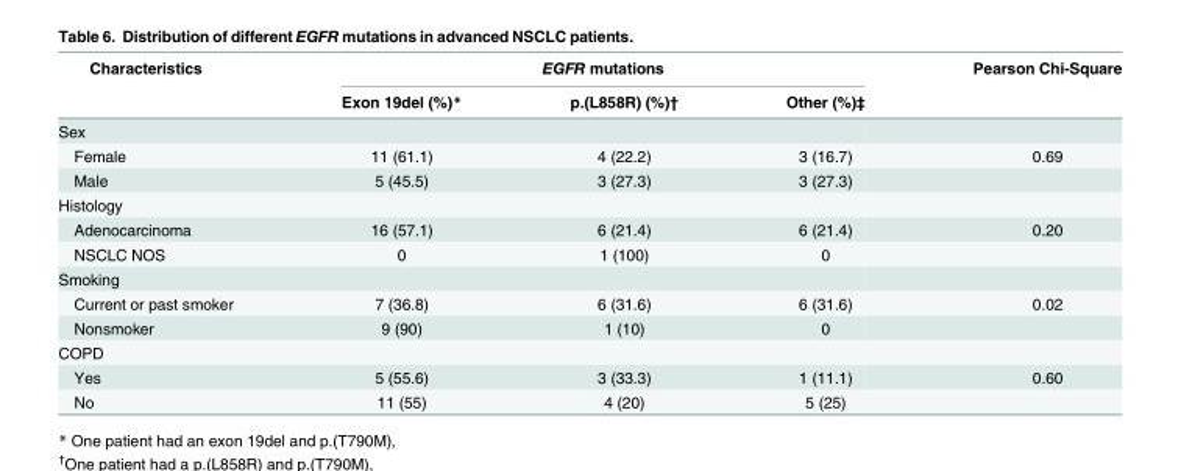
<table><thead><tr><td rowspan="2">Characteristics</td><td colspan="3">EGFR mutations</td><td rowspan="2">Pearson Chi-Square</td></tr><tr><td>Exon 19del (%)*</td><td>p.(L858R) (%)†</td><td>Other (%)‡</td></tr></thead><tbody><tr><td colspan="5">Sex</td></tr><tr><td>Female</td><td>11 (61.1)</td><td>4 (22.2)</td><td>3 (16.7)</td><td>0.69</td></tr><tr><td>Male</td><td>5 (45.5)</td><td>3 (27.3)</td><td>3 (27.3)</td><td></td></tr><tr><td colspan="5">Histology</td></tr><tr><td>Adenocarcinoma</td><td>16 (57.1)</td><td>6 (21.4)</td><td>6 (21.4)</td><td>0.20</td></tr><tr><td>NSCLC NOS</td><td>0</td><td>1 (100)</td><td>0</td><td></td></tr><tr><td colspan="5">Smoking</td></tr><tr><td>Current or past smoker</td><td>7 (36.8)</td><td>6 (31.6)</td><td>6 (31.6)</td><td>0.02</td></tr><tr><td>Nonsmoker</td><td>9 (90)</td><td>1 (10)</td><td>0</td><td></td></tr><tr><td colspan="5">COPD</td></tr><tr><td>Yes</td><td>5 (55.6)</td><td>3 (33.3)</td><td>1 (11.1)</td><td>0.60</td></tr><tr><td>No</td><td>11 (55)</td><td>4 (20)</td><td>5 (25)</td><td></td></tr></tbody></table>